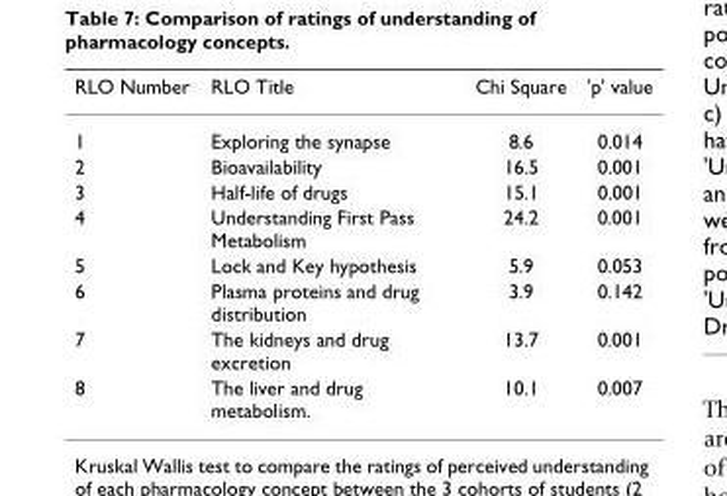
<table><thead><tr><td>RLO Number</td><td>RLO Title</td><td>Chi Square</td><td>&#x27;p&#x27; value</td></tr></thead><tbody><tr><td>1</td><td>Exploring the synapse</td><td>8.6</td><td>0.014</td></tr><tr><td>2</td><td>Bioavailability</td><td>16.5</td><td>0.001</td></tr><tr><td>3</td><td>Half-life of drugs</td><td>15.1</td><td>0.001</td></tr><tr><td>4</td><td>Understanding First Pass Metabolism</td><td>24.2</td><td>0.001</td></tr><tr><td>5</td><td>Lock and Key hypothesis</td><td>5.9</td><td>0.053</td></tr><tr><td>6</td><td>Plasma proteins and drug distribution</td><td>3.9</td><td>0.142</td></tr><tr><td>7</td><td>The kidneys and drug excretion</td><td>13.7</td><td>0.001</td></tr><tr><td>8</td><td>The liver and drug metabolism.</td><td>10.1</td><td>0.007</td></tr></tbody></table>